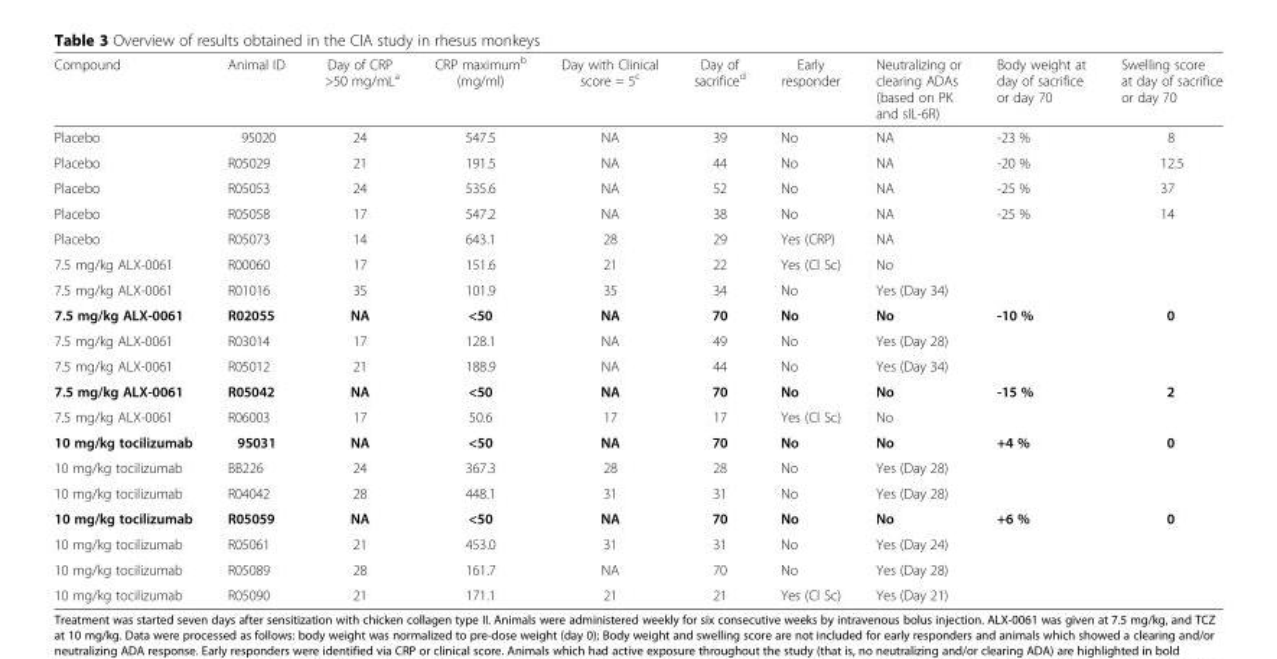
<table><thead><tr><td>Compound</td><td>Animal ID</td><td>Day of CRP &gt;50 mg/mL<sup>a</sup></td><td>CRP maximum<sup>b</sup> (mg/ml)</td><td>Day with Clinical score = 5<sup>c</sup></td><td>Day of sacrifice<sup>d</sup></td><td>Early responder</td><td>Neutralizing or clearing ADAs (based on PK and sIL-6R)</td><td>Body weight at day of sacrifice or day 70</td><td>Swelling score at day of sacrifice or day 70</td></tr></thead><tbody><tr><td>Placebo</td><td>95020</td><td>24</td><td>547.5</td><td>NA</td><td>39</td><td>No</td><td>NA</td><td>-23 %</td><td>8</td></tr><tr><td>Placebo</td><td>R05029</td><td>21</td><td>191.5</td><td>NA</td><td>44</td><td>No</td><td>NA</td><td>-20 %</td><td>12.5</td></tr><tr><td>Placebo</td><td>R05053</td><td>24</td><td>535.6</td><td>NA</td><td>52</td><td>No</td><td>NA</td><td>-25 %</td><td>37</td></tr><tr><td>Placebo</td><td>R05058</td><td>17</td><td>547.2</td><td>NA</td><td>38</td><td>No</td><td>NA</td><td>-25 %</td><td>14</td></tr><tr><td>Placebo</td><td>R05073</td><td>14</td><td>643.1</td><td>28</td><td>29</td><td>Yes (CRP)</td><td>NA</td><td></td><td></td></tr><tr><td>7.5 mg/kg ALX-0061</td><td>R00060</td><td>17</td><td>151.6</td><td>21</td><td>22</td><td>Yes (Cl Sc)</td><td>No</td><td></td><td></td></tr><tr><td>7.5 mg/kg ALX-0061</td><td>R01016</td><td>35</td><td>101.9</td><td>35</td><td>34</td><td>No</td><td>Yes (Day 34)</td><td></td><td></td></tr><tr><td>7.5 mg/kg ALX-0061</td><td>R02055</td><td>NA</td><td>&lt;50</td><td>NA</td><td>70</td><td>No</td><td>No</td><td>-10 %</td><td>0</td></tr><tr><td>7.5 mg/kg ALX-0061</td><td>R03014</td><td>17</td><td>128.1</td><td>NA</td><td>49</td><td>No</td><td>Yes (Day 28)</td><td></td><td></td></tr><tr><td>7.5 mg/kg ALX-0061</td><td>R05012</td><td>21</td><td>188.9</td><td>NA</td><td>44</td><td>No</td><td>Yes (Day 34)</td><td></td><td></td></tr><tr><td>7.5 mg/kg ALX-0061</td><td>R05042</td><td>NA</td><td>&lt;50</td><td>NA</td><td>70</td><td>No</td><td>No</td><td>-15 %</td><td>2</td></tr><tr><td>7.5 mg/kg ALX-0061</td><td>R06003</td><td>17</td><td>50.6</td><td>17</td><td>17</td><td>Yes (Cl Sc)</td><td>No</td><td></td><td></td></tr><tr><td>10 mg/kg tocilizumab</td><td>95031</td><td>NA</td><td>&lt;50</td><td>NA</td><td>70</td><td>No</td><td>No</td><td>+4 %</td><td>0</td></tr><tr><td>10 mg/kg tocilizumab</td><td>BB226</td><td>24</td><td>367.3</td><td>28</td><td>28</td><td>No</td><td>Yes (Day 28)</td><td></td><td></td></tr><tr><td>10 mg/kg tocilizumab</td><td>R04042</td><td>28</td><td>448.1</td><td>31</td><td>31</td><td>No</td><td>Yes (Day 28)</td><td></td><td></td></tr><tr><td>10 mg/kg tocilizumab</td><td>R05059</td><td>NA</td><td>&lt;50</td><td>NA</td><td>70</td><td>No</td><td>No</td><td>+6 %</td><td>0</td></tr><tr><td>10 mg/kg tocilizumab</td><td>R05061</td><td>21</td><td>453.0</td><td>31</td><td>31</td><td>No</td><td>Yes (Day 24)</td><td></td><td></td></tr><tr><td>10 mg/kg tocilizumab</td><td>R05089</td><td>28</td><td>161.7</td><td>NA</td><td>70</td><td>No</td><td>Yes (Day 28)</td><td></td><td></td></tr><tr><td>10 mg/kg tocilizumab</td><td>R05090</td><td>21</td><td>171.1</td><td>21</td><td>21</td><td>Yes (Cl Sc)</td><td>Yes (Day 21)</td><td></td><td></td></tr></tbody></table>